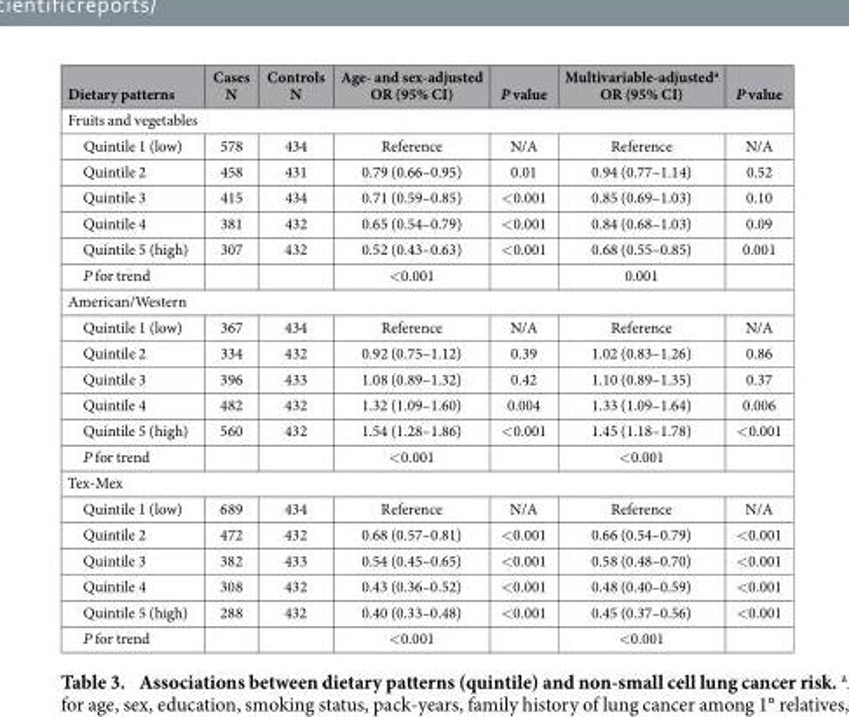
<table><thead><tr><td>Dietary patterns</td><td>Cases N</td><td>Controls N</td><td>Age- and sex-adjusted OR (95% CI)</td><td>P value</td><td>Multivariable-adjusted<sup>a</sup> OR (95% CI)</td><td>P value</td></tr></thead><tbody><tr><td colspan="7">Fruits and vegetables</td></tr><tr><td>Quintile 1 (low)</td><td>578</td><td>434</td><td>Reference</td><td>N/A</td><td>Reference</td><td>N/A</td></tr><tr><td>Quintile 2</td><td>458</td><td>431</td><td>0.79 (0.66–0.95)</td><td>0.01</td><td>0.94 (0.77–1.14)</td><td>0.52</td></tr><tr><td>Quintile 3</td><td>415</td><td>434</td><td>0.71 (0.59–0.85)</td><td>&lt;0.001</td><td>0.85 (0.69–1.03)</td><td>0.10</td></tr><tr><td>Quintile 4</td><td>381</td><td>432</td><td>0.65 (0.54–0.79)</td><td>&lt;0.001</td><td>0.84 (0.68–1.03)</td><td>0.09</td></tr><tr><td>Quintile 5 (high)</td><td>307</td><td>432</td><td>0.52 (0.43–0.63)</td><td>&lt;0.001</td><td>0.68 (0.55–0.85)</td><td>0.001</td></tr><tr><td>P for trend</td><td></td><td></td><td>&lt;0.001</td><td></td><td>0.001</td><td></td></tr><tr><td colspan="7">American/Western</td></tr><tr><td>Quintile 1 (low)</td><td>367</td><td>434</td><td>Reference</td><td>N/A</td><td>Reference</td><td>N/A</td></tr><tr><td>Quintile 2</td><td>334</td><td>432</td><td>0.92 (0.75–1.12)</td><td>0.39</td><td>1.02 (0.83–1.26)</td><td>0.86</td></tr><tr><td>Quintile 3</td><td>396</td><td>433</td><td>1.08 (0.89–1.32)</td><td>0.42</td><td>1.10 (0.89–1.35)</td><td>0.37</td></tr><tr><td>Quintile 4</td><td>482</td><td>432</td><td>1.32 (1.09–1.60)</td><td>0.004</td><td>1.33 (1.09–1.64)</td><td>0.006</td></tr><tr><td>Quintile 5 (high)</td><td>560</td><td>432</td><td>1.54 (1.28–1.86)</td><td>&lt;0.001</td><td>1.45 (1.18–1.78)</td><td>&lt; 0.001</td></tr><tr><td>P for trend</td><td></td><td></td><td>&lt;0.001</td><td></td><td>&lt; 0.001</td><td></td></tr><tr><td colspan="7">Tex-Mex</td></tr><tr><td>Quintile 1 (low)</td><td>689</td><td>434</td><td>Reference</td><td>N/A</td><td>Reference</td><td>N/A</td></tr><tr><td>Quintile 2</td><td>472</td><td>432</td><td>0.68 (0.57–0.81)</td><td>&lt;0.001</td><td>0.66 (0.54–0.79)</td><td>&lt;0.001</td></tr><tr><td>Quintile 3</td><td>382</td><td>433</td><td>0.54 (0.45–0.65)</td><td>&lt;0.001</td><td>0.58 (0.48–0.70)</td><td>&lt;0.001</td></tr><tr><td>Quintile 4</td><td>308</td><td>432</td><td>0.43 (0.36–0.52)</td><td>&lt;0.001</td><td>0.48 (0.40–0.59)</td><td>&lt;0.001</td></tr><tr><td>Quintile 5 (high)</td><td>288</td><td>432</td><td>0.40 (0.33–0.48)</td><td>&lt;0.001</td><td>0.45 (0.37–0.56)</td><td>&lt;0.001</td></tr><tr><td>P for trend</td><td></td><td></td><td>&lt;0.001</td><td></td><td>&lt;0.001</td><td></td></tr></tbody></table>